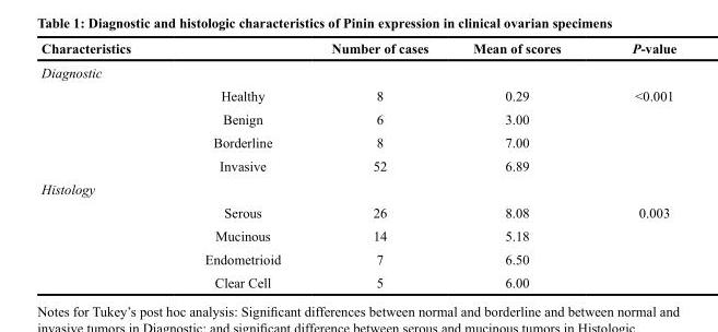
<table><thead><tr><td>Characteristics</td><td></td><td>Number of cases</td><td>Mean of scores</td><td>P-value</td></tr></thead><tbody><tr><td colspan="5">Diagnostic</td></tr><tr><td></td><td>Healthy</td><td>8</td><td>0.29</td><td>&lt;0.001</td></tr><tr><td></td><td>Benign</td><td>6</td><td>3.00</td><td></td></tr><tr><td></td><td>Borderline</td><td>8</td><td>7.00</td><td></td></tr><tr><td></td><td>Invasive</td><td>52</td><td>6.89</td><td></td></tr><tr><td colspan="5">Histology</td></tr><tr><td></td><td>Serous</td><td>26</td><td>8.08</td><td>0.003</td></tr><tr><td></td><td>Mucinous</td><td>14</td><td>5.18</td><td></td></tr><tr><td></td><td>Endometrioid</td><td>7</td><td>6.50</td><td></td></tr><tr><td></td><td>Clear Cell</td><td>5</td><td>6.00</td><td></td></tr></tbody></table>